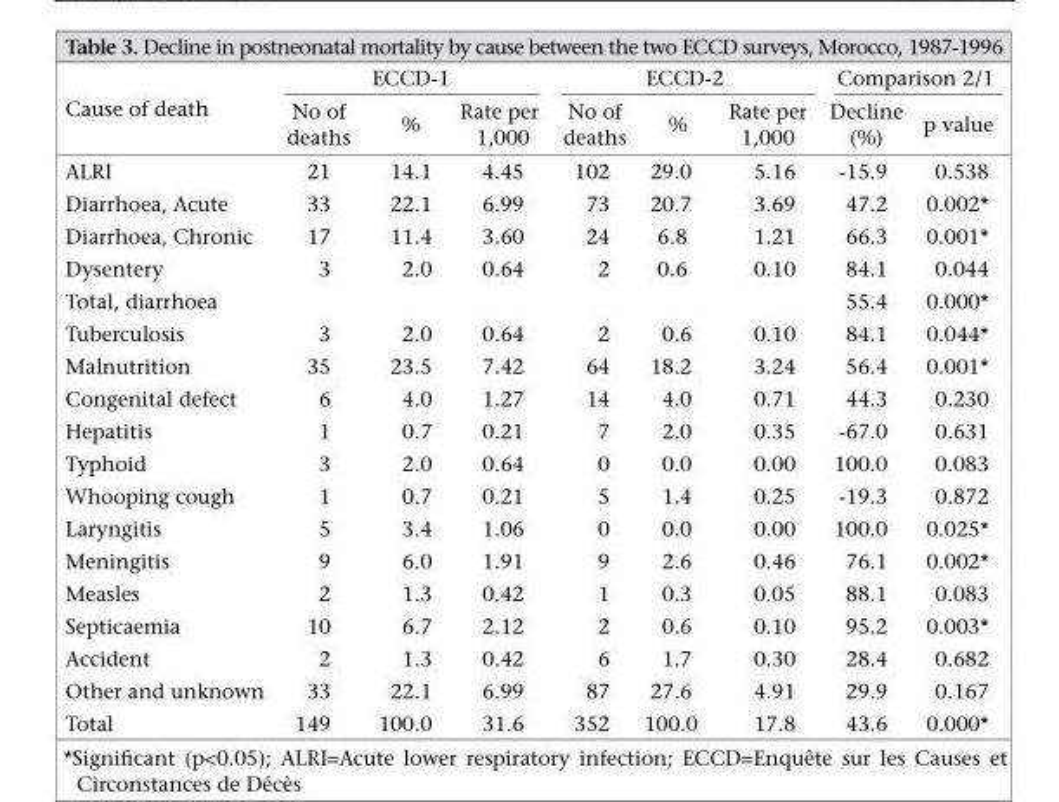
<table><thead><tr><td rowspan="2">Cause of death</td><td colspan="3">ECCD-1</td><td colspan="3">ECCD-2</td><td colspan="2">Comparison 2/1</td></tr><tr><td>No of deaths</td><td>%</td><td>Rate per 1,000</td><td>No of deaths</td><td>%</td><td>Rate per 1,000</td><td>Decline (%)</td><td>p value</td></tr></thead><tbody><tr><td>ALRI</td><td>21</td><td>14.1</td><td>4.45</td><td>102</td><td>29.0</td><td>5.16</td><td>-15.9</td><td>0.538</td></tr><tr><td>Diarrhoea, Acute</td><td>33</td><td>22.1</td><td>6.99</td><td>73</td><td>20.7</td><td>3.69</td><td>47.2</td><td>0.002*</td></tr><tr><td>Diarrhoea, Chronic</td><td>17</td><td>11.4</td><td>3.60</td><td>24</td><td>6.8</td><td>1.21</td><td>66.3</td><td>0.001*</td></tr><tr><td>Dysentery</td><td>3</td><td>2.0</td><td>0.64</td><td>2</td><td>0.6</td><td>0.10</td><td>84.1</td><td>0.044</td></tr><tr><td>Total, diarrhoea</td><td></td><td></td><td></td><td></td><td></td><td></td><td>55.4</td><td>0.000*</td></tr><tr><td>Tuberculosis</td><td>3</td><td>2.0</td><td>0.64</td><td>2</td><td>0.6</td><td>0.10</td><td>84.1</td><td>0.044*</td></tr><tr><td>Malnutrition</td><td>35</td><td>23.5</td><td>7.42</td><td>64</td><td>18.2</td><td>3.24</td><td>56.4</td><td>0.001*</td></tr><tr><td>Congenital defect</td><td>6</td><td>4.0</td><td>1.27</td><td>14</td><td>4.0</td><td>0.71</td><td>44.3</td><td>0.230</td></tr><tr><td>Hepatitis</td><td>1</td><td>0.7</td><td>0.21</td><td>7</td><td>2.0</td><td>0.35</td><td>-67.0</td><td>0.631</td></tr><tr><td>Typhoid</td><td>3</td><td>2.0</td><td>0.64</td><td>0</td><td>0.0</td><td>0.00</td><td>100.0</td><td>0.083</td></tr><tr><td>Whooping cough</td><td>1</td><td>0.7</td><td>0.21</td><td>5</td><td>1.4</td><td>0.25</td><td>-19.3</td><td>0.872</td></tr><tr><td>Laryngitis</td><td>5</td><td>3.4</td><td>1.06</td><td>0</td><td>0.0</td><td>0.00</td><td>100.0</td><td>0.025*</td></tr><tr><td>Meningitis</td><td>9</td><td>6.0</td><td>1.91</td><td>9</td><td>2.6</td><td>0.46</td><td>76.1</td><td>0.002*</td></tr><tr><td>Measles</td><td>2</td><td>1.3</td><td>0.42</td><td>1</td><td>0.3</td><td>0.05</td><td>88.1</td><td>0.083</td></tr><tr><td>Septicaemia</td><td>10</td><td>6.7</td><td>2.12</td><td>2</td><td>0.6</td><td>0.10</td><td>95.2</td><td>0.003*</td></tr><tr><td>Accident</td><td>2</td><td>1.3</td><td>0.42</td><td>6</td><td>1.7</td><td>0.30</td><td>28.4</td><td>0.682</td></tr><tr><td>Other and unknown</td><td>33</td><td>22.1</td><td>6.99</td><td>87</td><td>27.6</td><td>4.91</td><td>29.9</td><td>0.167</td></tr><tr><td>Total</td><td>149</td><td>100.0</td><td>31.6</td><td>352</td><td>100.0</td><td>17.8</td><td>43.6</td><td>0.000*</td></tr></tbody></table>